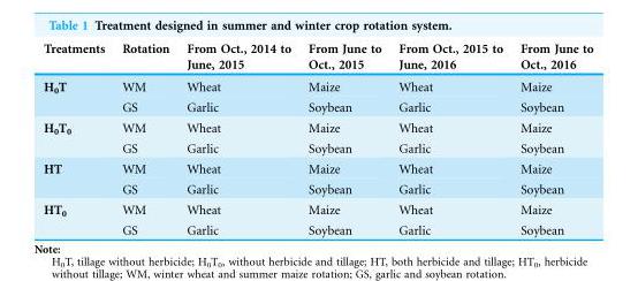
<table><thead><tr><td>Treatments</td><td>Rotation</td><td>From Oct., 2014 to June, 2015</td><td>From June to Oct., 2015</td><td>From Oct., 2015 to June, 2016</td><td>From June to Oct., 2016</td></tr></thead><tbody><tr><td rowspan="2">H<sub>0</sub>T</td><td>WM</td><td>Wheat</td><td>Maize</td><td>Wheat</td><td>Maize</td></tr><tr><td>GS</td><td>Garlic</td><td>Soybean</td><td>Garlic</td><td>Soybean</td></tr><tr><td rowspan="2">H<sub>0</sub>T<sub>0</sub></td><td>WM</td><td>Wheat</td><td>Maize</td><td>Wheat</td><td>Maize</td></tr><tr><td>GS</td><td>Garlic</td><td>Soybean</td><td>Garlic</td><td>Soybean</td></tr><tr><td rowspan="2">HT</td><td>WM</td><td>Wheat</td><td>Maize</td><td>Wheat</td><td>Maize</td></tr><tr><td>GS</td><td>Garlic</td><td>Soybean</td><td>Garlic</td><td>Soybean</td></tr><tr><td rowspan="2">HT<sub>0</sub></td><td>WM</td><td>Wheat</td><td>Maize</td><td>Wheat</td><td>Maize</td></tr><tr><td>GS</td><td>Garlic</td><td>Soybean</td><td>Garlic</td><td>Soybean</td></tr></tbody></table>